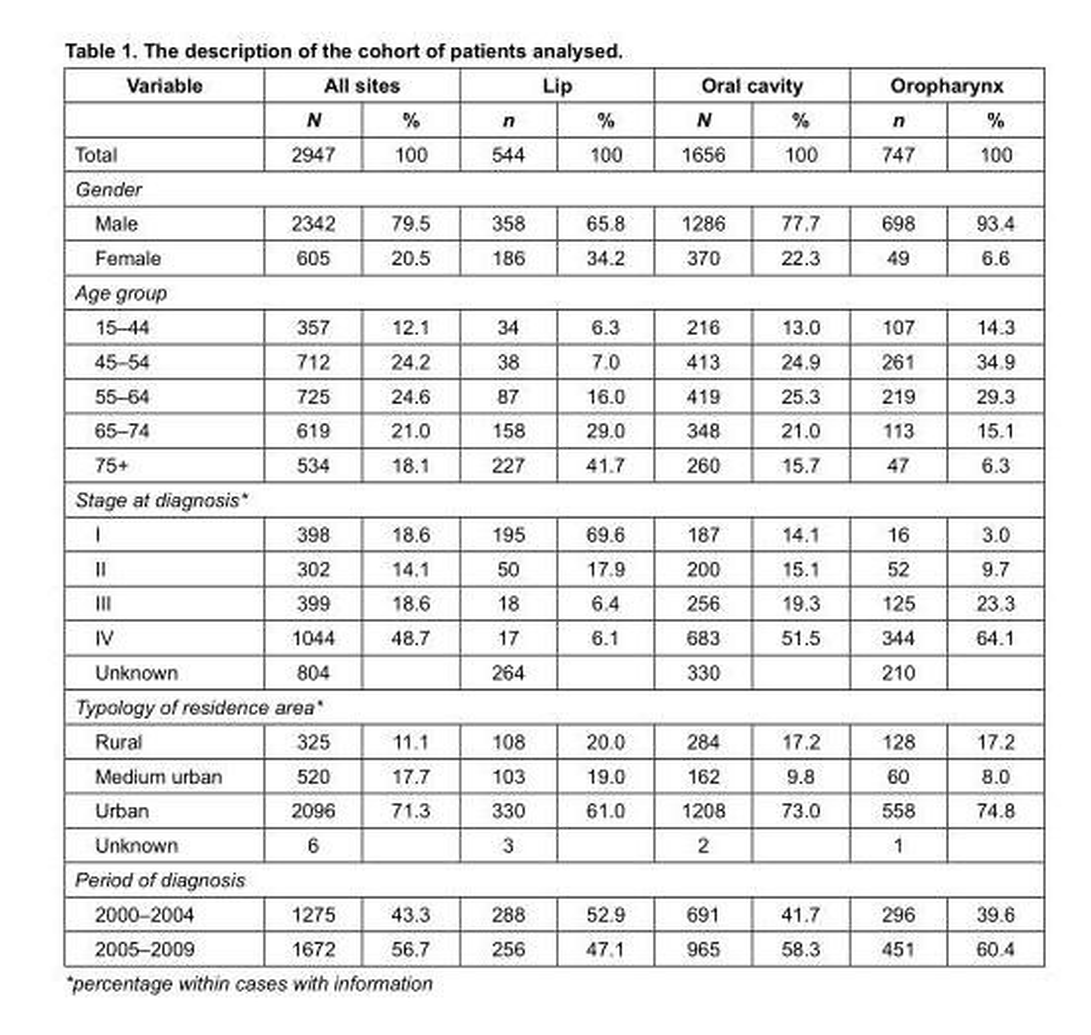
<table><thead><tr><td rowspan="2">Variable</td><td colspan="2">All sites</td><td colspan="2">Lip</td><td colspan="2">Oral cavity</td><td colspan="2">Oropharynx</td></tr><tr><td>N</td><td>%</td><td>n</td><td>%</td><td>N</td><td>%</td><td>n</td><td>%</td></tr></thead><tbody><tr><td>Total</td><td>2947</td><td>100</td><td>544</td><td>100</td><td>1656</td><td>100</td><td>747</td><td>100</td></tr><tr><td colspan="9">Gender</td></tr><tr><td>Male</td><td>2342</td><td>79.5</td><td>358</td><td>65.8</td><td>1286</td><td>77.7</td><td>698</td><td>93.4</td></tr><tr><td>Female</td><td>605</td><td>20.5</td><td>186</td><td>34.2</td><td>370</td><td>22.3</td><td>49</td><td>6.6</td></tr><tr><td colspan="9">Age group</td></tr><tr><td>15–44</td><td>357</td><td>12.1</td><td>34</td><td>6.3</td><td>216</td><td>13.0</td><td>107</td><td>14.3</td></tr><tr><td>45–54</td><td>712</td><td>24.2</td><td>38</td><td>7.0</td><td>413</td><td>24.9</td><td>261</td><td>34.9</td></tr><tr><td>55–64</td><td>725</td><td>24.6</td><td>87</td><td>16.0</td><td>419</td><td>25.3</td><td>219</td><td>29.3</td></tr><tr><td>65–74</td><td>619</td><td>21.0</td><td>158</td><td>29.0</td><td>348</td><td>21.0</td><td>113</td><td>15.1</td></tr><tr><td>75+</td><td>534</td><td>18.1</td><td>227</td><td>41.7</td><td>260</td><td>15.7</td><td>47</td><td>6.3</td></tr><tr><td colspan="9">Stage at diagnosis*</td></tr><tr><td>I</td><td>398</td><td>18.6</td><td>195</td><td>69.6</td><td>187</td><td>14.1</td><td>16</td><td>3.0</td></tr><tr><td>II</td><td>302</td><td>14.1</td><td>50</td><td>17.9</td><td>200</td><td>15.1</td><td>52</td><td>9.7</td></tr><tr><td>III</td><td>399</td><td>18.6</td><td>18</td><td>6.4</td><td>256</td><td>19.3</td><td>125</td><td>23.3</td></tr><tr><td>IV</td><td>1044</td><td>48.7</td><td>17</td><td>6.1</td><td>683</td><td>51.5</td><td>344</td><td>64.1</td></tr><tr><td>Unknown</td><td>804</td><td></td><td>264</td><td></td><td>330</td><td></td><td>210</td><td></td></tr><tr><td colspan="9">Typology of residence area*</td></tr><tr><td>Rural</td><td>325</td><td>11.1</td><td>108</td><td>20.0</td><td>284</td><td>17.2</td><td>128</td><td>17.2</td></tr><tr><td>Medium urban</td><td>520</td><td>17.7</td><td>103</td><td>19.0</td><td>162</td><td>9.8</td><td>60</td><td>8.0</td></tr><tr><td>Urban</td><td>2096</td><td>71.3</td><td>330</td><td>61.0</td><td>1208</td><td>73.0</td><td>558</td><td>74.8</td></tr><tr><td>Unknown</td><td>6</td><td></td><td>3</td><td></td><td>2</td><td></td><td>1</td><td></td></tr><tr><td colspan="9">Period of diagnosis</td></tr><tr><td>2000–2004</td><td>1275</td><td>43.3</td><td>288</td><td>52.9</td><td>691</td><td>41.7</td><td>296</td><td>39.6</td></tr><tr><td>2005–2009</td><td>1672</td><td>56.7</td><td>256</td><td>47.1</td><td>965</td><td>58.3</td><td>451</td><td>60.4</td></tr></tbody></table>